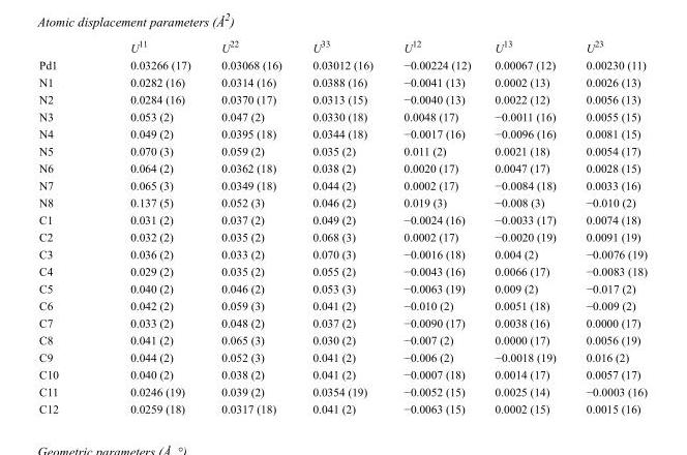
<table><thead><tr><td></td><td>U<sup>11</sup></td><td>U<sup>22</sup></td><td>U<sup>33</sup></td><td>U<sup>12</sup></td><td>U<sup>13</sup></td><td>U<sup>23</sup></td></tr></thead><tbody><tr><td>Pd1</td><td>0.03266 (17)</td><td>0.03068 (16)</td><td>0.03012 (16)</td><td>−0.00224 (12)</td><td>0.00067 (12)</td><td>0.00230 (11)</td></tr><tr><td>N1</td><td>0.0282 (16)</td><td>0.0314 (16)</td><td>0.0388 (16)</td><td>−0.0041 (13)</td><td>0.0002 (13)</td><td>0.0026 (13)</td></tr><tr><td>N2</td><td>0.0284 (16)</td><td>0.0370 (17)</td><td>0.0313 (15)</td><td>−0.0040 (13)</td><td>0.0022 (12)</td><td>0.0056 (13)</td></tr><tr><td>N3</td><td>0.053 (2)</td><td>0.047 (2)</td><td>0.0330 (18)</td><td>0.0048 (17)</td><td>−0.0011 (16)</td><td>0.0055 (15)</td></tr><tr><td>N4</td><td>0.049 (2)</td><td>0.0395 (18)</td><td>0.0344 (18)</td><td>−0.0017 (16)</td><td>−0.0096 (16)</td><td>0.0081 (15)</td></tr><tr><td>N5</td><td>0.070 (3)</td><td>0.059 (2)</td><td>0.035 (2)</td><td>0.011 (2)</td><td>0.0021 (18)</td><td>0.0054 (17)</td></tr><tr><td>N6</td><td>0.064 (2)</td><td>0.0362 (18)</td><td>0.038 (2)</td><td>0.0020 (17)</td><td>0.0047 (17)</td><td>0.0028 (15)</td></tr><tr><td>N7</td><td>0.065 (3)</td><td>0.0349 (18)</td><td>0.044 (2)</td><td>0.0002 (17)</td><td>−0.0084 (18)</td><td>0.0033 (16)</td></tr><tr><td>N8</td><td>0.137 (5)</td><td>0.052 (3)</td><td>0.046 (2)</td><td>0.019 (3)</td><td>−0.008 (3)</td><td>−0.010 (2)</td></tr><tr><td>C1</td><td>0.031 (2)</td><td>0.037 (2)</td><td>0.049 (2)</td><td>−0.0024 (16)</td><td>−0.0033 (17)</td><td>0.0074 (18)</td></tr><tr><td>C2</td><td>0.032 (2)</td><td>0.035 (2)</td><td>0.068 (3)</td><td>0.0002 (17)</td><td>−0.0020 (19)</td><td>0.0091 (19)</td></tr><tr><td>C3</td><td>0.036 (2)</td><td>0.033 (2)</td><td>0.070 (3)</td><td>−0.0016 (18)</td><td>0.004 (2)</td><td>−0.0076 (19)</td></tr><tr><td>C4</td><td>0.029 (2)</td><td>0.035 (2)</td><td>0.055 (2)</td><td>−0.0043 (16)</td><td>0.0066 (17)</td><td>−0.0083 (18)</td></tr><tr><td>C5</td><td>0.040 (2)</td><td>0.046 (2)</td><td>0.053 (3)</td><td>−0.0063 (19)</td><td>0.009 (2)</td><td>−0.017 (2)</td></tr><tr><td>C6</td><td>0.042 (2)</td><td>0.059 (3)</td><td>0.041 (2)</td><td>−0.010 (2)</td><td>0.0051 (18)</td><td>−0.009 (2)</td></tr><tr><td>C7</td><td>0.033 (2)</td><td>0.048 (2)</td><td>0.037 (2)</td><td>−0.0090 (17)</td><td>0.0038 (16)</td><td>0.0000 (17)</td></tr><tr><td>C8</td><td>0.041 (2)</td><td>0.065 (3)</td><td>0.030 (2)</td><td>−0.007 (2)</td><td>0.0000 (17)</td><td>0.0056 (19)</td></tr><tr><td>C9</td><td>0.044 (2)</td><td>0.052 (3)</td><td>0.041 (2)</td><td>−0.006 (2)</td><td>−0.0018 (19)</td><td>0.016 (2)</td></tr><tr><td>C10</td><td>0.040 (2)</td><td>0.038 (2)</td><td>0.041 (2)</td><td>−0.0007 (18)</td><td>0.0014 (17)</td><td>0.0057 (17)</td></tr><tr><td>C11</td><td>0.0246 (19)</td><td>0.039 (2)</td><td>0.0354 (19)</td><td>−0.0052 (15)</td><td>0.0025 (14)</td><td>−0.0003 (16)</td></tr><tr><td>C12</td><td>0.0259 (18)</td><td>0.0317 (18)</td><td>0.041 (2)</td><td>−0.0063 (15)</td><td>0.0002 (15)</td><td>0.0015 (16)</td></tr></tbody></table>